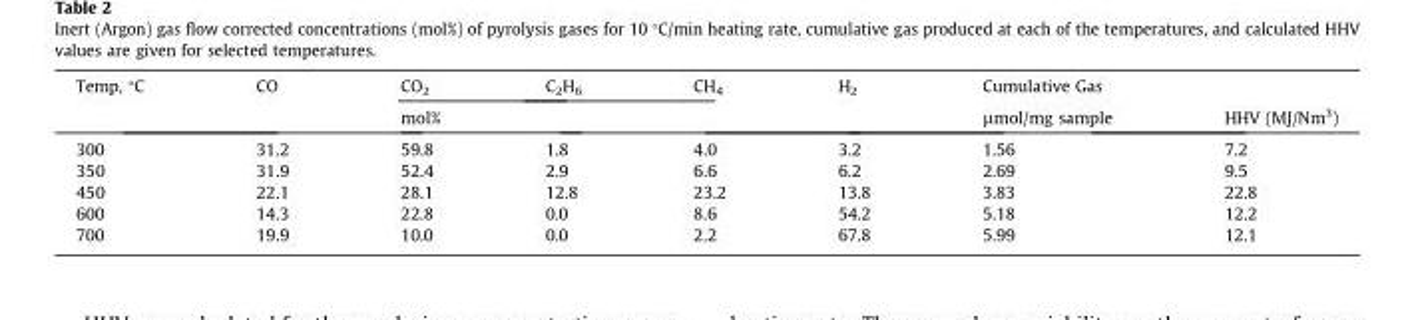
<table><thead><tr><td rowspan="2">Temp, °C</td><td rowspan="2">CO</td><td>CO<sub>2</sub></td><td>C<sub>2</sub>H<sub>6</sub></td><td rowspan="2">CH<sub>4</sub></td><td rowspan="2">H<sub>2</sub></td><td rowspan="2">Cumulative Gas μmol/mg sample</td><td rowspan="2">HHV (MJ/Nm<sup>3</sup>)</td></tr><tr><td colspan="2">mol%</td></tr></thead><tbody><tr><td>300</td><td>31.2</td><td>59.8</td><td>1.8</td><td>4.0</td><td>3.2</td><td>1.56</td><td>7.2</td></tr><tr><td>350</td><td>31.9</td><td>52.4</td><td>2.9</td><td>6.6</td><td>6.2</td><td>2.69</td><td>9.5</td></tr><tr><td>450</td><td>22.1</td><td>28.1</td><td>12.8</td><td>23.2</td><td>13.8</td><td>3.83</td><td>22.8</td></tr><tr><td>600</td><td>14.3</td><td>22.8</td><td>0.0</td><td>8.6</td><td>54.2</td><td>5.18</td><td>12.2</td></tr><tr><td>700</td><td>19.9</td><td>10.0</td><td>0.0</td><td>2.2</td><td>67.8</td><td>5.99</td><td>12.1</td></tr></tbody></table>